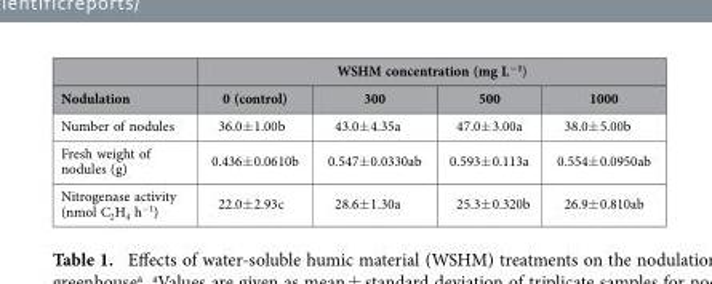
<table><thead><tr><td rowspan="2">Nodulation</td><td colspan="4">WSHM concentration (mg L<sup>−1</sup>)</td></tr><tr><td>0 (control)</td><td>300</td><td>500</td><td>1000</td></tr></thead><tbody><tr><td>Number of nodules</td><td>36.0± 1.00b</td><td>43.0± 4.35a</td><td>47.0± 3.00a</td><td>38.0± 5.00b</td></tr><tr><td>Fresh weight of nodules (g)</td><td>0.436± 0.0610b</td><td>0.547± 0.0330ab</td><td>0.593± 0.113a</td><td>0.554± 0.0950ab</td></tr><tr><td>Nitrogenase activity (nmol C<sub>2</sub>H<sub>4</sub> h<sup>−1</sup>)</td><td>22.0± 2.93c</td><td>28.6± 1.30a</td><td>25.3± 0.320b</td><td>26.9± 0.810ab</td></tr></tbody></table>